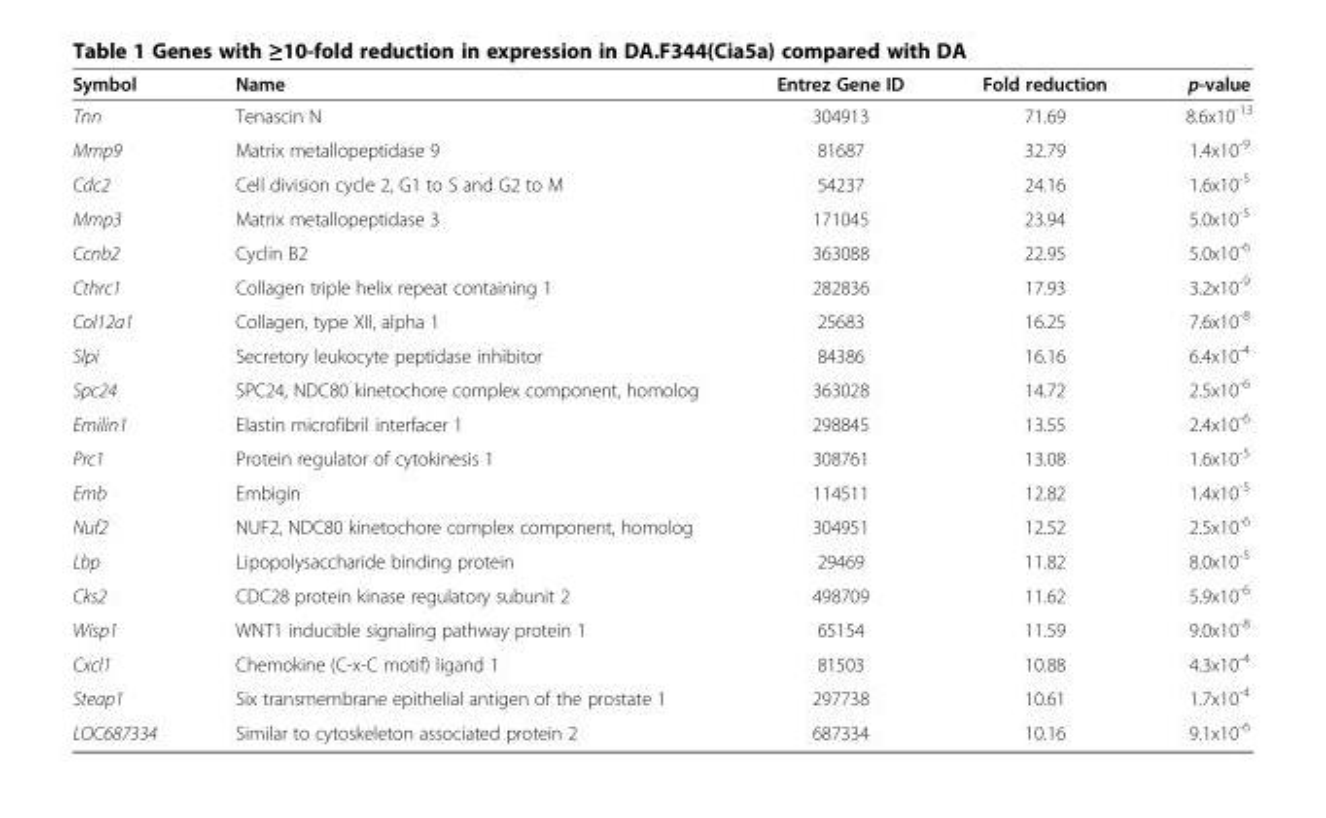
<table><thead><tr><td>Symbol</td><td>Name</td><td>Entrez Gene ID</td><td>Fold reduction</td><td>p-value</td></tr></thead><tbody><tr><td>Tnn</td><td>Tenascin N</td><td>304913</td><td>71.69</td><td>8.6x10<sup>-13</sup></td></tr><tr><td>Mmp9</td><td>Matrix metallopeptidase 9</td><td>81687</td><td>32.79</td><td>1.4x10<sup>-9</sup></td></tr><tr><td>Cdc2</td><td>Cell division cycle 2, G1 to S and G2 to M</td><td>54237</td><td>24.16</td><td>1.6x10<sup>-5</sup></td></tr><tr><td>Mmp3</td><td>Matrix metallopeptidase 3</td><td>171045</td><td>23.94</td><td>5.0x10<sup>-5</sup></td></tr><tr><td>Ccnb2</td><td>Cyclin B2</td><td>363088</td><td>22.95</td><td>5.0x10<sup>-6</sup></td></tr><tr><td>Cthrc1</td><td>Collagen triple helix repeat containing 1</td><td>282836</td><td>17.93</td><td>3.2x10<sup>-9</sup></td></tr><tr><td>Col12a1</td><td>Collagen, type XII, alpha 1</td><td>25683</td><td>16.25</td><td>7.6x10<sup>-8</sup></td></tr><tr><td>Slpi</td><td>Secretory leukocyte peptidase inhibitor</td><td>84386</td><td>16.16</td><td>6.4x10<sup>-4</sup></td></tr><tr><td>Spc24</td><td>SPC24, NDC80 kinetochore complex component, homolog</td><td>363028</td><td>14.72</td><td>2.5x10<sup>-6</sup></td></tr><tr><td>Emilin1</td><td>Elastin microfibril interfacer 1</td><td>298845</td><td>13.55</td><td>2.4x10<sup>-6</sup></td></tr><tr><td>Prc1</td><td>Protein regulator of cytokinesis 1</td><td>308761</td><td>13.08</td><td>1.6x10<sup>-5</sup></td></tr><tr><td>Emb</td><td>Embigin</td><td>114511</td><td>12.82</td><td>1.4x10<sup>-5</sup></td></tr><tr><td>Nuf2</td><td>NUF2, NDC80 kinetochore complex component, homolog</td><td>304951</td><td>12.52</td><td>2.5x10<sup>-6</sup></td></tr><tr><td>Lbp</td><td>Lipopolysaccharide binding protein</td><td>29469</td><td>11.82</td><td>8.0x10<sup>-5</sup></td></tr><tr><td>Cks2</td><td>CDC28 protein kinase regulatory subunit 2</td><td>498709</td><td>11.62</td><td>5.9x10<sup>-6</sup></td></tr><tr><td>Wisp1</td><td>WNT1 inducible signaling pathway protein 1</td><td>65154</td><td>11.59</td><td>9.0x10<sup>-8</sup></td></tr><tr><td>Cxcl1</td><td>Chemokine (C-x-C motif) ligand 1</td><td>81503</td><td>10.88</td><td>4.3x10<sup>-4</sup></td></tr><tr><td>Steap1</td><td>Six transmembrane epithelial antigen of the prostate 1</td><td>297738</td><td>10.61</td><td>1.7x10<sup>-4</sup></td></tr><tr><td>LOC687334</td><td>Similar to cytoskeleton associated protein 2</td><td>687334</td><td>10.16</td><td>9.1x10<sup>-6</sup></td></tr></tbody></table>